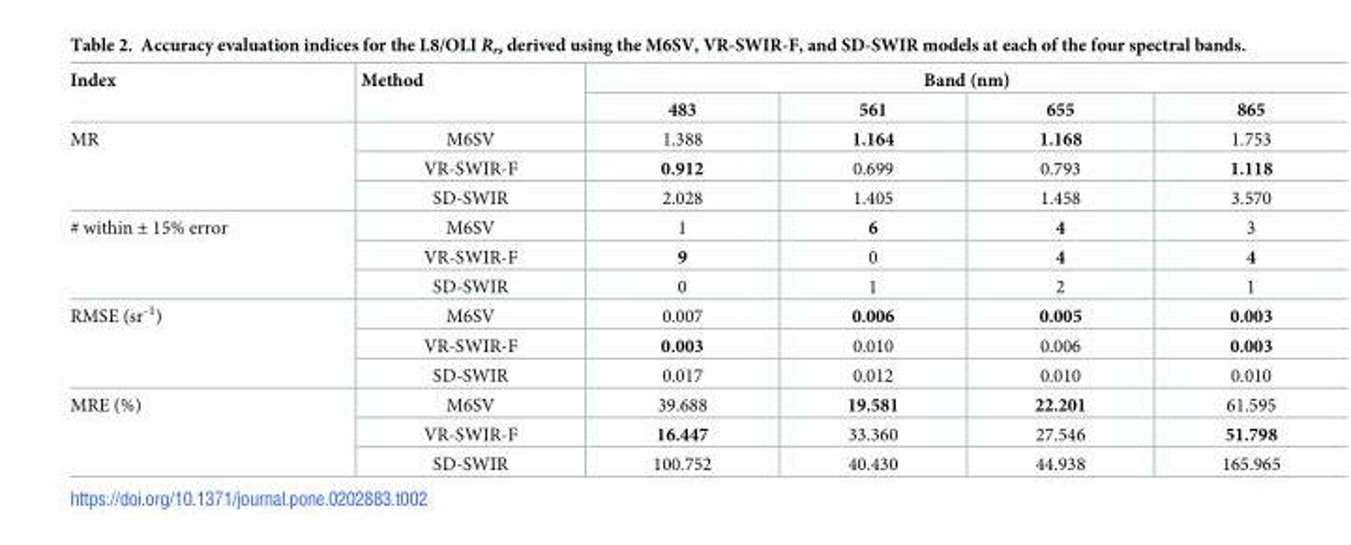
<table><thead><tr><td rowspan="2">Index</td><td rowspan="2">Method</td><td colspan="4">Band (nm)</td></tr><tr><td>483</td><td>561</td><td>655</td><td>865</td></tr></thead><tbody><tr><td rowspan="3">MR</td><td>M6SV</td><td>1.388</td><td>1.164</td><td>1.168</td><td>1.753</td></tr><tr><td>VR-SWIR-F</td><td>0.912</td><td>0.699</td><td>0.793</td><td>1.118</td></tr><tr><td>SD-SWIR</td><td>2.028</td><td>1.405</td><td>1.458</td><td>3.570</td></tr><tr><td rowspan="3"># within ± 15% error</td><td>M6SV</td><td>1</td><td>6</td><td>4</td><td>3</td></tr><tr><td>VR-SWIR-F</td><td>9</td><td>0</td><td>4</td><td>4</td></tr><tr><td>SD-SWIR</td><td>0</td><td>1</td><td>2</td><td>1</td></tr><tr><td rowspan="3">RMSE (sr<sup>-1</sup>)</td><td>M6SV</td><td>0.007</td><td>0.006</td><td>0.005</td><td>0.003</td></tr><tr><td>VR-SWIR-F</td><td>0.003</td><td>0.010</td><td>0.006</td><td>0.003</td></tr><tr><td>SD-SWIR</td><td>0.017</td><td>0.012</td><td>0.010</td><td>0.010</td></tr><tr><td rowspan="3">MRE (%)</td><td>M6SV</td><td>39.688</td><td>19.581</td><td>22.201</td><td>61.595</td></tr><tr><td>VR-SWIR-F</td><td>16.447</td><td>33.360</td><td>27.546</td><td>51.798</td></tr><tr><td>SD-SWIR</td><td>100.752</td><td>40.430</td><td>44.938</td><td>165.965</td></tr></tbody></table>